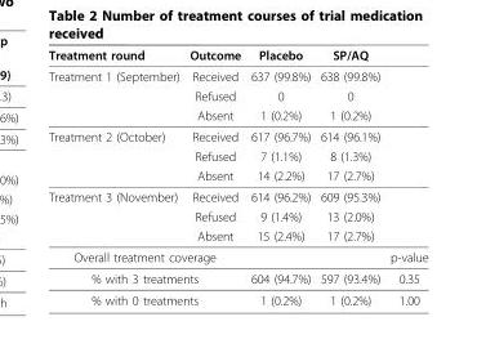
<table><thead><tr><td>Treatment round</td><td>Outcome</td><td>Placebo</td><td>SP/AQ</td><td></td></tr></thead><tbody><tr><td rowspan="3">Treatment 1 (September)</td><td>Received</td><td>637 (99.8%)</td><td>638 (99.8%)</td><td></td></tr><tr><td>Refused</td><td>0</td><td>0</td><td></td></tr><tr><td>Absent</td><td>1 (0.2%)</td><td>1 (0.2%)</td><td></td></tr><tr><td rowspan="3">Treatment 2 (October)</td><td>Received</td><td>617 (96.7%)</td><td>614 (96.1%)</td><td></td></tr><tr><td>Refused</td><td>7 (1.1%)</td><td>8 (1.3%)</td><td></td></tr><tr><td>Absent</td><td>14 (2.2%)</td><td>17 (2.7%)</td><td></td></tr><tr><td rowspan="3">Treatment 3 (November)</td><td>Received</td><td>614 (96.2%)</td><td>609 (95.3%)</td><td></td></tr><tr><td>Refused</td><td>9 (1.4%)</td><td>13 (2.0%)</td><td></td></tr><tr><td>Absent</td><td>15 (2.4%)</td><td>17 (2.7%)</td><td></td></tr><tr><td colspan="2">Overall treatment coverage</td><td></td><td></td><td>p-value</td></tr><tr><td colspan="2">% with 3 treatments</td><td>604 (94.7%)</td><td>597 (93.4%)</td><td>0.35</td></tr><tr><td colspan="2">% with 0 treatments</td><td>1 (0.2%)</td><td>1 (0.2%)</td><td>1.00</td></tr></tbody></table>